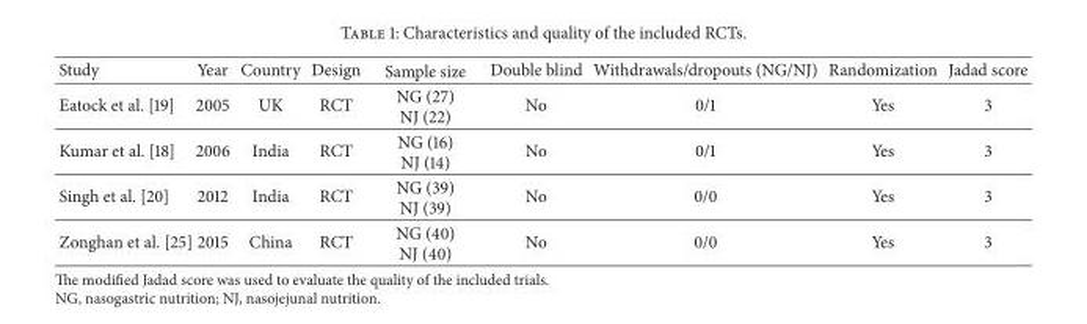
<table><thead><tr><td>Study</td><td>Year</td><td>Country</td><td>Design</td><td>Sample size</td><td>Double blind</td><td>Withdrawals/dropouts (NG/NJ)</td><td>Randomization</td><td>Jadad score</td></tr></thead><tbody><tr><td>Eatock et al. [19]</td><td>2005</td><td>UK</td><td>RCT</td><td>NG (27) NJ (22)</td><td>No</td><td>0/1</td><td>Yes</td><td>3</td></tr><tr><td>Kumar et al. [18]</td><td>2006</td><td>India</td><td>RCT</td><td>NG (16) NJ (14)</td><td>No</td><td>0/1</td><td>Yes</td><td>3</td></tr><tr><td>Singh et al. [20]</td><td>2012</td><td>India</td><td>RCT</td><td>NG (39) NJ (39)</td><td>No</td><td>0/0</td><td>Yes</td><td>3</td></tr><tr><td>Zonghan et al. [25]</td><td>2015</td><td>China</td><td>RCT</td><td>NG (40) NJ (40)</td><td>No</td><td>0/0</td><td>Yes</td><td>3</td></tr></tbody></table>